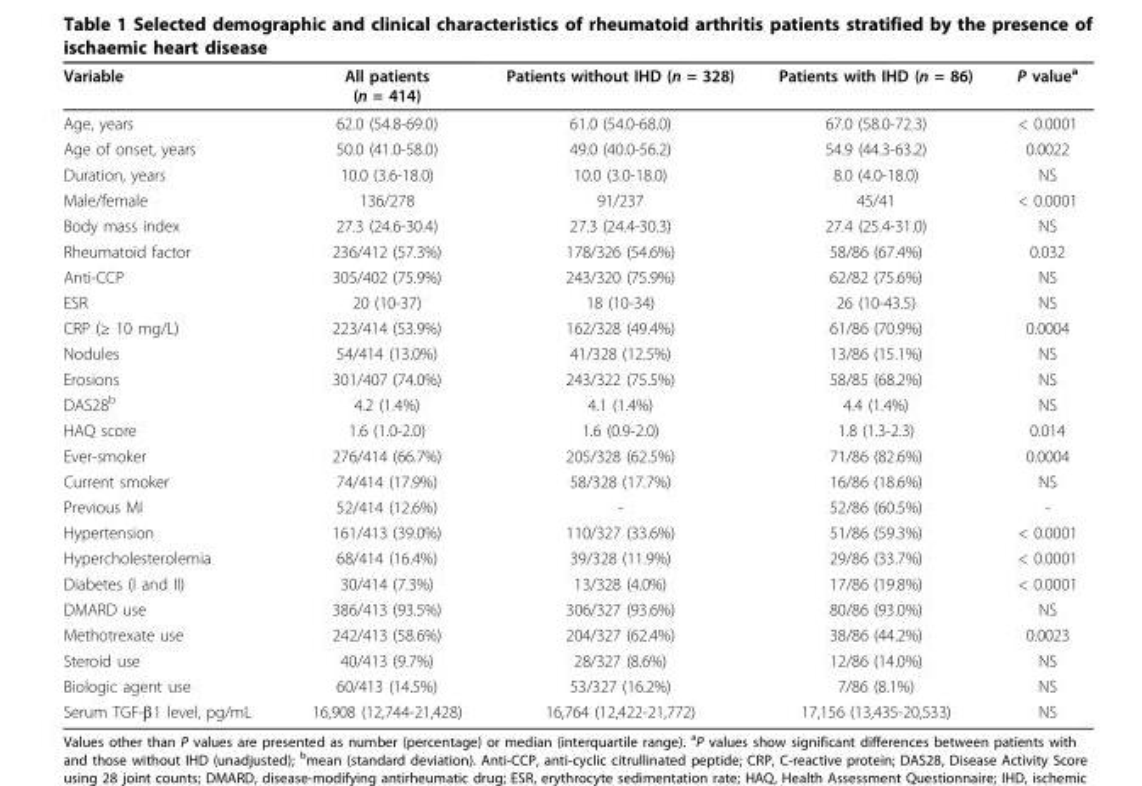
<table><thead><tr><td>Variable</td><td>All patients (n = 414)</td><td>Patients without IHD (n = 328)</td><td>Patients with IHD (n = 86)</td><td>P value<sup>a</sup></td></tr></thead><tbody><tr><td>Age, years</td><td>62.0 (54.8-69.0)</td><td>61.0 (54.0-68.0)</td><td>67.0 (58.0-72.3)</td><td>&lt; 0.0001</td></tr><tr><td>Age of onset, years</td><td>50.0 (41.0-58.0)</td><td>49.0 (40.0-56.2)</td><td>54.9 (44.3-63.2)</td><td>0.0022</td></tr><tr><td>Duration, years</td><td>10.0 (3.6-18.0)</td><td>10.0 (3.0-18.0)</td><td>8.0 (4.0-18.0)</td><td>NS</td></tr><tr><td>Male/female</td><td>136/278</td><td>91/237</td><td>45/41</td><td>&lt; 0.0001</td></tr><tr><td>Body mass index</td><td>27.3 (24.6-30.4)</td><td>27.3 (24.4-30.3)</td><td>27.4 (25.4-31.0)</td><td>NS</td></tr><tr><td>Rheumatoid factor</td><td>236/412 (57.3%)</td><td>178/326 (54.6%)</td><td>58/86 (67.4%)</td><td>0.032</td></tr><tr><td>Anti-CCP</td><td>305/402 (75.9%)</td><td>243/320 (75.9%)</td><td>62/82 (75.6%)</td><td>NS</td></tr><tr><td>ESR</td><td>20 (10-37)</td><td>18 (10-34)</td><td>26 (10-43.5)</td><td>NS</td></tr><tr><td>CRP (≥ 10 mg/L)</td><td>223/414 (53.9%)</td><td>162/328 (49.4%)</td><td>61/86 (70.9%)</td><td>0.0004</td></tr><tr><td>Nodules</td><td>54/414 (13.0%)</td><td>41/328 (12.5%)</td><td>13/86 (15.1%)</td><td>NS</td></tr><tr><td>Erosions</td><td>301/407 (74.0%)</td><td>243/322 (75.5%)</td><td>58/85 (68.2%)</td><td>NS</td></tr><tr><td>DAS28<sup>b</sup></td><td>4.2 (1.4%)</td><td>4.1 (1.4%)</td><td>4.4 (1.4%)</td><td>NS</td></tr><tr><td>HAQ score</td><td>1.6 (1.0-2.0)</td><td>1.6 (0.9-2.0)</td><td>1.8 (1.3-2.3)</td><td>0.014</td></tr><tr><td>Ever-smoker</td><td>276/414 (66.7%)</td><td>205/328 (62.5%)</td><td>71/86 (82.6%)</td><td>0.0004</td></tr><tr><td>Current smoker</td><td>74/414 (17.9%)</td><td>58/328 (17.7%)</td><td>16/86 (18.6%)</td><td>NS</td></tr><tr><td>Previous MI</td><td>52/414 (12.6%)</td><td>-</td><td>52/86 (60.5%)</td><td>-</td></tr><tr><td>Hypertension</td><td>161/413 (39.0%)</td><td>110/327 (33.6%)</td><td>51/86 (59.3%)</td><td>&lt; 0.0001</td></tr><tr><td>Hypercholesterolemia</td><td>68/414 (16.4%)</td><td>39/328 (11.9%)</td><td>29/86 (33.7%)</td><td>&lt; 0.0001</td></tr><tr><td>Diabetes (I and II)</td><td>30/414 (7.3%)</td><td>13/328 (4.0%)</td><td>17/86 (19.8%)</td><td>&lt; 0.0001</td></tr><tr><td>DMARD use</td><td>386/413 (93.5%)</td><td>306/327 (93.6%)</td><td>80/86 (93.0%)</td><td>NS</td></tr><tr><td>Methotrexate use</td><td>242/413 (58.6%)</td><td>204/327 (62.4%)</td><td>38/86 (44.2%)</td><td>0.0023</td></tr><tr><td>Steroid use</td><td>40/413 (9.7%)</td><td>28/327 (8.6%)</td><td>12/86 (14.0%)</td><td>NS</td></tr><tr><td>Biologic agent use</td><td>60/413 (14.5%)</td><td>53/327 (16.2%)</td><td>7/86 (8.1%)</td><td>NS</td></tr><tr><td>Serum TGF-β1 level, pg/mL</td><td>16,908 (12,744-21,428)</td><td>16,764 (12,422-21,772)</td><td>17,156 (13,435-20,533)</td><td>NS</td></tr></tbody></table>